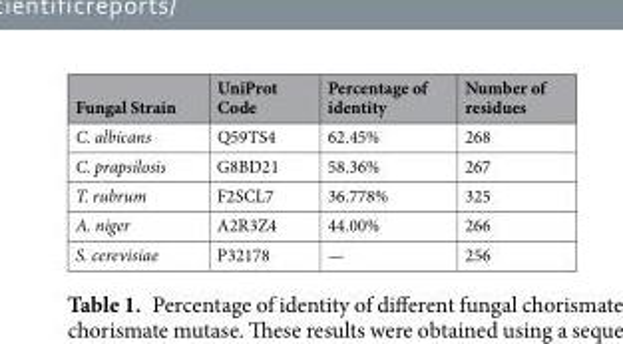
<table><thead><tr><td>Fungal Strain</td><td>UniProt Code</td><td>Percentage of identity</td><td>Number of residues</td></tr></thead><tbody><tr><td>C. albicans</td><td>Q59TS4</td><td>62.45%</td><td>268</td></tr><tr><td>C. prapsilosis</td><td>G8BD21</td><td>58.36%</td><td>267</td></tr><tr><td>T. rubrum</td><td>F2SCL7</td><td>36.778%</td><td>325</td></tr><tr><td>A. niger</td><td>A2R3Z4</td><td>44.00%</td><td>266</td></tr><tr><td>S. cerevisiae</td><td>P32178</td><td>—</td><td>256</td></tr></tbody></table>